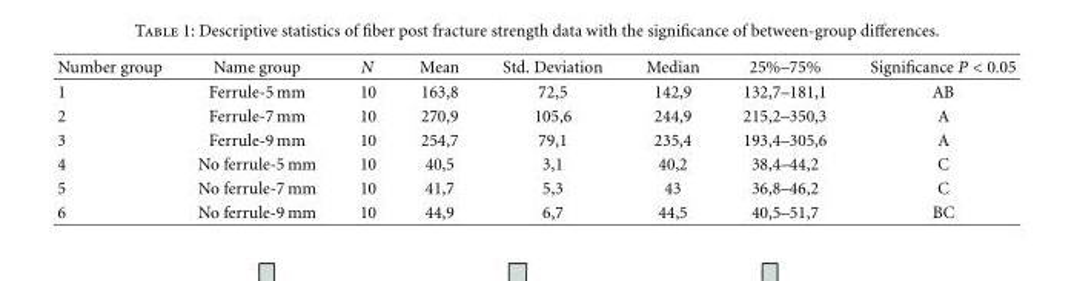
<table><thead><tr><td>Number group</td><td>Name group</td><td>N</td><td>Mean</td><td>Std. Deviation</td><td>Median</td><td>25%–75%</td><td>Significance P &lt; 0.05</td></tr></thead><tbody><tr><td>1</td><td>Ferrule-5 mm</td><td>10</td><td>163,8</td><td>72,5</td><td>142,9</td><td>132,7–181,1</td><td>AB</td></tr><tr><td>2</td><td>Ferrule-7 mm</td><td>10</td><td>270,9</td><td>105,6</td><td>244,9</td><td>215,2–350,3</td><td>A</td></tr><tr><td>3</td><td>Ferrule-9 mm</td><td>10</td><td>254,7</td><td>79,1</td><td>235,4</td><td>193,4–305,6</td><td>A</td></tr><tr><td>4</td><td>No ferrule-5 mm</td><td>10</td><td>40,5</td><td>3,1</td><td>40,2</td><td>38,4–44,2</td><td>C</td></tr><tr><td>5</td><td>No ferrule-7 mm</td><td>10</td><td>41,7</td><td>5,3</td><td>43</td><td>36,8–46,2</td><td>C</td></tr><tr><td>6</td><td>No ferrule-9 mm</td><td>10</td><td>44,9</td><td>6,7</td><td>44,5</td><td>40,5–51,7</td><td>BC</td></tr></tbody></table>